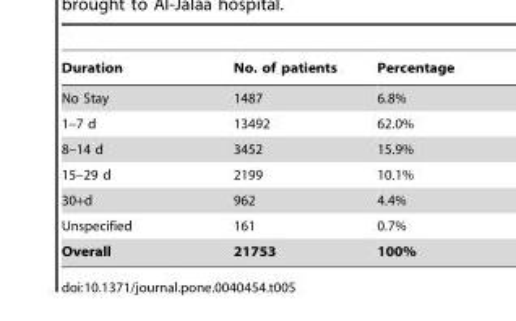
<table><thead><tr><td>Duration</td><td>No. of patients</td><td>Percentage</td></tr></thead><tbody><tr><td>No Stay</td><td>1487</td><td>6.8%</td></tr><tr><td>1–7 d</td><td>13492</td><td>62.0%</td></tr><tr><td>8–14 d</td><td>3452</td><td>15.9%</td></tr><tr><td>15–29 d</td><td>2199</td><td>10.1%</td></tr><tr><td>30+d</td><td>962</td><td>4.4%</td></tr><tr><td>Unspecified</td><td>161</td><td>0.7%</td></tr><tr><td>Overall</td><td>21753</td><td>100%</td></tr></tbody></table>